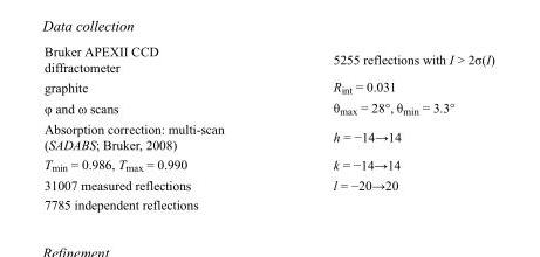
<table><tbody><tr><td>Bruker APEXII CCD diffractometer</td><td>5255 reflections with I &gt; 2σ(I)</td></tr><tr><td>graphite</td><td>R<sub>int</sub> = 0.031</td></tr><tr><td>φ and ω scans</td><td>θ<sub>max</sub> = 28°, θ<sub>min</sub> = 3.3°</td></tr><tr><td>Absorption correction: multi-scan (SADABS; Bruker, 2008)</td><td>h = −14→14</td></tr><tr><td>T<sub>min</sub> = 0.986, T<sub>max</sub> = 0.990</td><td>k = −14→14</td></tr><tr><td>31007 measured reflections</td><td>l = −20→20</td></tr><tr><td>7785 independent reflections</td><td></td></tr></tbody></table>